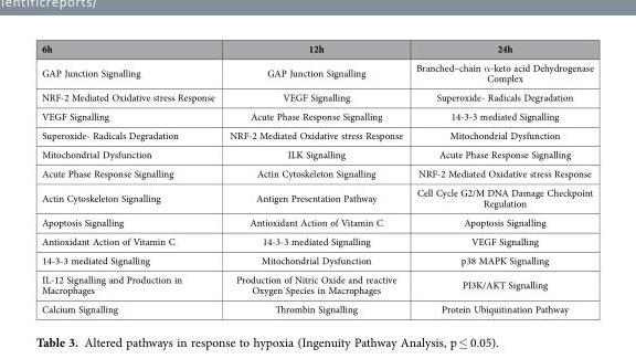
<table><thead><tr><td>6h</td><td>12h</td><td>24h</td></tr></thead><tbody><tr><td>GAP Junction Signalling</td><td>GAP Junction Signalling</td><td>Branched–chain α -keto acid Dehydrogenase Complex</td></tr><tr><td>NRF-2 Mediated Oxidative stress Response</td><td>VEGF Signalling</td><td>Superoxide- Radicals Degradation</td></tr><tr><td>VEGF Signalling</td><td>Acute Phase Response Signalling</td><td>14-3-3 mediated Signalling</td></tr><tr><td>Superoxide- Radicals Degradation</td><td>NRF-2 Mediated Oxidative stress Response</td><td>Mitochondrial Dysfunction</td></tr><tr><td>Mitochondrial Dysfunction</td><td>ILK Signalling</td><td>Acute Phase Response Signalling</td></tr><tr><td>Acute Phase Response Signalling</td><td>Actin Cytoskeleton Signalling</td><td>NRF-2 Mediated Oxidative stress Response</td></tr><tr><td>Actin Cytoskeleton Signalling</td><td>Antigen Presentation Pathway</td><td>Cell Cycle G2/M DNA Damage Checkpoint Regulation</td></tr><tr><td>Apoptosis Signalling</td><td>Antioxidant Action of Vitamin C</td><td>Apoptosis Signalling</td></tr><tr><td>Antioxidant Action of Vitamin C</td><td>14-3-3 mediated Signalling</td><td>VEGF Signalling</td></tr><tr><td>14-3-3 mediated Signalling</td><td>Mitochondrial Dysfunction</td><td>p38 MAPK Signalling</td></tr><tr><td>IL-12 Signalling and Production in Macrophages</td><td>Production of Nitric Oxide and reactive Oxygen Species in Macrophages</td><td>PI3K/AKT Signalling</td></tr><tr><td>Calcium Signalling</td><td>Thrombin Signalling</td><td>Protein Ubiquitination Pathway</td></tr></tbody></table>